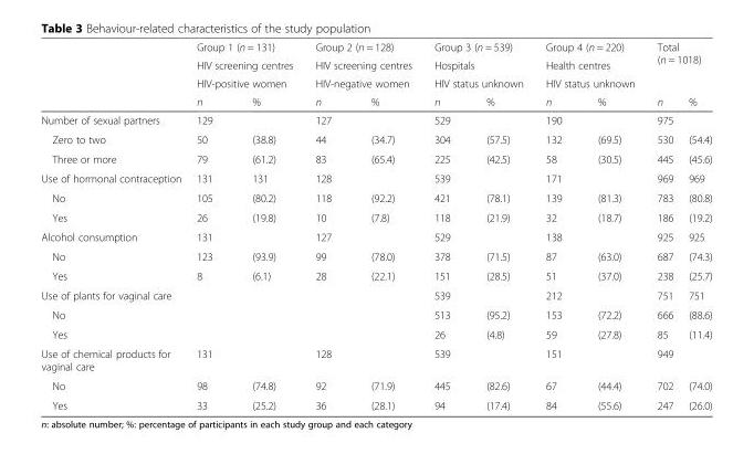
<table><thead><tr><td rowspan="4"></td><td rowspan="3" colspan="2">Group 1 (n = 131) HIV screening centres HIV-positive women</td><td rowspan="3" colspan="2">Group 2 (n = 128) HIV screening centres HIV-negative women</td><td rowspan="3" colspan="2">Group 3 (n = 539) Hospitals HIV status unknown</td><td rowspan="3" colspan="2">Group 4 (n = 220) Health centres HIV status unknown</td><td rowspan="3" colspan="2">Total (n = 1018)</td></tr><tr></tr><tr></tr><tr><td>n</td><td>%</td><td>n</td><td>%</td><td>n</td><td>%</td><td>n</td><td>%</td><td>n</td><td>%</td></tr></thead><tbody><tr><td>Number of sexual partners</td><td>129</td><td></td><td>127</td><td></td><td>529</td><td></td><td>190</td><td></td><td>975</td><td></td></tr><tr><td>Zero to two</td><td>50</td><td>(38.8)</td><td>44</td><td>(34.7)</td><td>304</td><td>(57.5)</td><td>132</td><td>(69.5)</td><td>530</td><td>(54.4)</td></tr><tr><td>Three or more</td><td>79</td><td>(61.2)</td><td>83</td><td>(65.4)</td><td>225</td><td>(42.5)</td><td>58</td><td>(30.5)</td><td>445</td><td>(45.6)</td></tr><tr><td>Use of hormonal contraception</td><td>131</td><td>131</td><td>128</td><td></td><td>539</td><td></td><td>171</td><td></td><td>969</td><td>969</td></tr><tr><td>No</td><td>105</td><td>(80.2)</td><td>118</td><td>(92.2)</td><td>421</td><td>(78.1)</td><td>139</td><td>(81.3)</td><td>783</td><td>(80.8)</td></tr><tr><td>Yes</td><td>26</td><td>(19.8)</td><td>10</td><td>(7.8)</td><td>118</td><td>(21.9)</td><td>32</td><td>(18.7)</td><td>186</td><td>(19.2)</td></tr><tr><td>Alcohol consumption</td><td>131</td><td></td><td>127</td><td></td><td>529</td><td></td><td>138</td><td></td><td>925</td><td>925</td></tr><tr><td>No</td><td>123</td><td>(93.9)</td><td>99</td><td>(78.0)</td><td>378</td><td>(71.5)</td><td>87</td><td>(63.0)</td><td>687</td><td>(74.3)</td></tr><tr><td>Yes</td><td>8</td><td>(6.1)</td><td>28</td><td>(22.1)</td><td>151</td><td>(28.5)</td><td>51</td><td>(37.0)</td><td>238</td><td>(25.7)</td></tr><tr><td>Use of plants for vaginal care</td><td></td><td></td><td></td><td></td><td>539</td><td></td><td>212</td><td></td><td>751</td><td>751</td></tr><tr><td>No</td><td></td><td></td><td></td><td></td><td>513</td><td>(95.2)</td><td>153</td><td>(72.2)</td><td>666</td><td>(88.6)</td></tr><tr><td>Yes</td><td></td><td></td><td></td><td></td><td>26</td><td>(4.8)</td><td>59</td><td>(27.8)</td><td>85</td><td>(11.4)</td></tr><tr><td>Use of chemical products for vaginal care</td><td>131</td><td></td><td>128</td><td></td><td>539</td><td></td><td>151</td><td></td><td>949</td><td></td></tr><tr><td>No</td><td>98</td><td>(74.8)</td><td>92</td><td>(71.9)</td><td>445</td><td>(82.6)</td><td>67</td><td>(44.4)</td><td>702</td><td>(74.0)</td></tr><tr><td>Yes</td><td>33</td><td>(25.2)</td><td>36</td><td>(28.1)</td><td>94</td><td>(17.4)</td><td>84</td><td>(55.6)</td><td>247</td><td>(26.0)</td></tr></tbody></table>